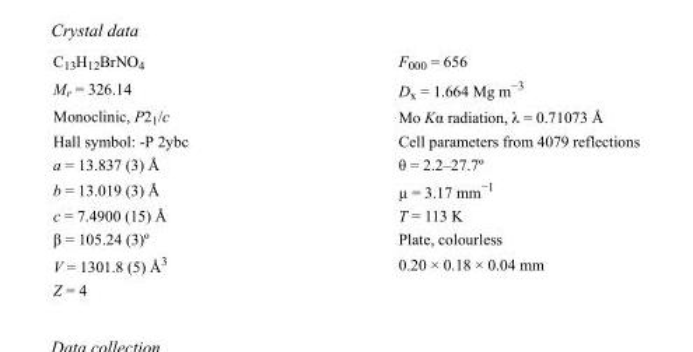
<table><tbody><tr><td>C<sub>13</sub>H<sub>12</sub>BrNO<sub>4</sub></td><td>F000 = 656</td></tr><tr><td>M<sub>r</sub> = 326.14</td><td>D<sub>x</sub> = 1.664 Mg m<sup>−3</sup></td></tr><tr><td>Monoclinic, P2<sub>1</sub>/c</td><td>Mo Kα radiation, λ = 0.71073 Å</td></tr><tr><td>Hall symbol: -P 2ybc</td><td>Cell parameters from 4079 reflections</td></tr><tr><td>a = 13.837 (3) Å</td><td>θ = 2.2–27.7º</td></tr><tr><td>b = 13.019 (3) Å</td><td>µ = 3.17 mm<sup>−1</sup></td></tr><tr><td>c = 7.4900 (15) Å</td><td>T = 113 K</td></tr><tr><td>β = 105.24 (3)º</td><td>Plate, colourless</td></tr><tr><td>V = 1301.8 (5) Å<sup>3</sup></td><td>0.20 × 0.18 × 0.04 mm</td></tr><tr><td>Z = 4</td><td></td></tr></tbody></table>